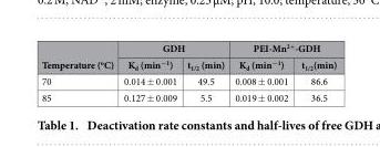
<table><thead><tr><td rowspan="2">Temperature (<sup>o</sup>C)</td><td colspan="2">GDH</td><td colspan="2">PEI-Mn<sup>2+</sup>-GDH</td></tr><tr><td>K<sub>d</sub> (min<sup>−1</sup>)</td><td>t<sub>1/2</sub> (min)</td><td>K<sub>d</sub> (min<sup>−1</sup>)</td><td>t<sub>1/2</sub>(min)</td></tr></thead><tbody><tr><td>70</td><td>0.014 ± 0.001</td><td>49.5</td><td>0.008 ± 0.001</td><td>86.6</td></tr><tr><td>85</td><td>0.127 ± 0.009</td><td>5.5</td><td>0.019 ± 0.002</td><td>36.5</td></tr></tbody></table>